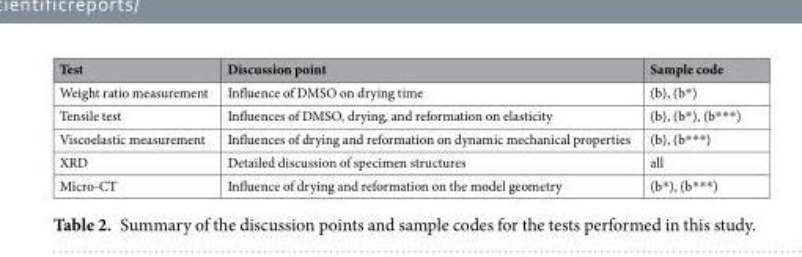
<table><thead><tr><td>Test</td><td>Discussion point</td><td>Sample code</td></tr></thead><tbody><tr><td>Weight ratio measurement</td><td>Influence of DMSO on drying time</td><td>(b), (b*)</td></tr><tr><td>Tensile test</td><td>Influences of DMSO, drying, and reformation on elasticity</td><td>(b), (b*), (b***)</td></tr><tr><td>Viscoelastic measurement</td><td>Influences of drying and reformation on dynamic mechanical properties</td><td>(b), (b***)</td></tr><tr><td>XRD</td><td>Detailed discussion of specimen structures</td><td>all</td></tr><tr><td>Micro-CT</td><td>Influence of drying and reformation on the model geometry</td><td>(b*), (b***)</td></tr></tbody></table>